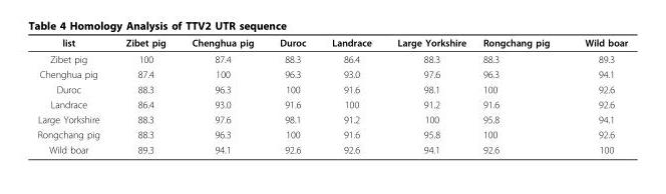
<table><thead><tr><td>list</td><td>Zibet pig</td><td>Chenghua pig</td><td>Duroc</td><td>Landrace</td><td>Large Yorkshire</td><td>Rongchang pig</td><td>Wild boar</td></tr></thead><tbody><tr><td>Zibet pig</td><td>100</td><td>87.4</td><td>88.3</td><td>86.4</td><td>88.3</td><td>88.3</td><td>89.3</td></tr><tr><td>Chenghua pig</td><td>87.4</td><td>100</td><td>96.3</td><td>93.0</td><td>97.6</td><td>96.3</td><td>94.1</td></tr><tr><td>Duroc</td><td>88.3</td><td>96.3</td><td>100</td><td>91.6</td><td>98.1</td><td>100</td><td>92.6</td></tr><tr><td>Landrace</td><td>86.4</td><td>93.0</td><td>91.6</td><td>100</td><td>91.2</td><td>91.6</td><td>92.6</td></tr><tr><td>Large Yorkshire</td><td>88.3</td><td>97.6</td><td>98.1</td><td>91.2</td><td>100</td><td>95.8</td><td>94.1</td></tr><tr><td>Rongchang pig</td><td>88.3</td><td>96.3</td><td>100</td><td>91.6</td><td>95.8</td><td>100</td><td>92.6</td></tr><tr><td>Wild boar</td><td>89.3</td><td>94.1</td><td>92.6</td><td>92.6</td><td>94.1</td><td>92.6</td><td>100</td></tr></tbody></table>